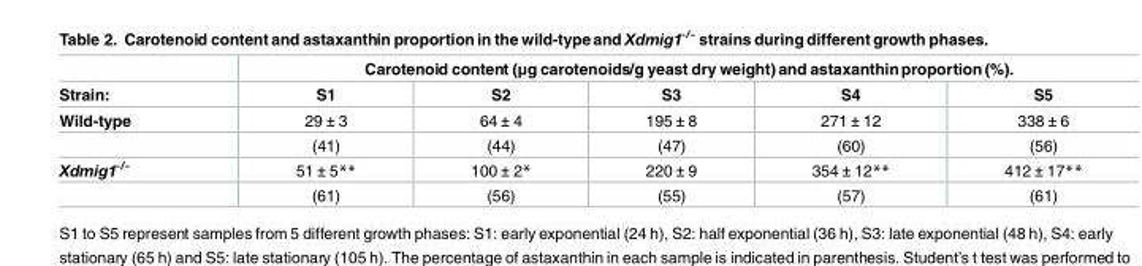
<table><thead><tr><td rowspan="2">Strain:</td><td colspan="5">Carotenoid content (μg carotenoids/g yeast dry weight) and astaxanthinproportion(%).</td></tr><tr><td>S1</td><td>S2</td><td>S3</td><td>S4</td><td>S5</td></tr></thead><tbody><tr><td rowspan="2">Wild-type</td><td>29 ± 3</td><td>64 ± 4</td><td>195 ± 8</td><td>271 ± 12</td><td>338 ± 6</td></tr><tr><td>(41)</td><td>(44)</td><td>(47)</td><td>(60)</td><td>(56)</td></tr><tr><td rowspan="2">Xdmig1<sup>-/-</sup></td><td>51 ± 5**</td><td>100 ± 2*</td><td>220 ± 9</td><td>354 ± 12**</td><td>412 ± 17**</td></tr><tr><td>(61)</td><td>(56)</td><td>(55)</td><td>(57)</td><td>(61)</td></tr></tbody></table>